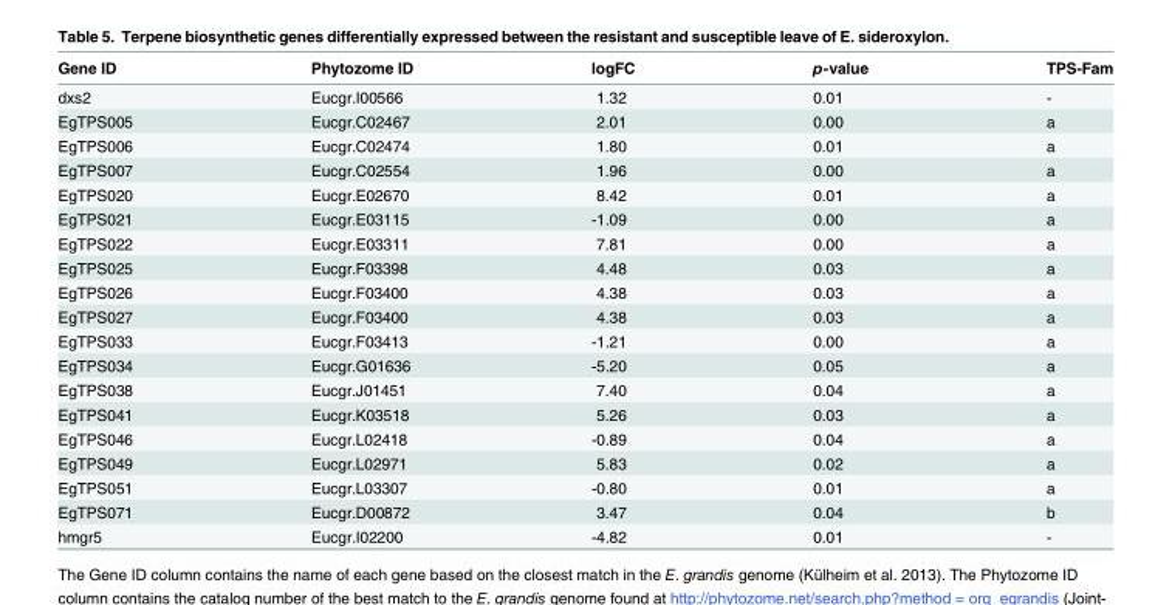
<table><thead><tr><td>Gene ID</td><td>Phytozome ID</td><td>logFC</td><td>p-value</td><td>TPS-Fam</td></tr></thead><tbody><tr><td>dxs2</td><td>Eucgr.I00566</td><td>1.32</td><td>0.01</td><td>-</td></tr><tr><td>EgTPS005</td><td>Eucgr.C02467</td><td>2.01</td><td>0.00</td><td>a</td></tr><tr><td>EgTPS006</td><td>Eucgr.C02474</td><td>1.80</td><td>0.01</td><td>a</td></tr><tr><td>EgTPS007</td><td>Eucgr.C02554</td><td>1.96</td><td>0.00</td><td>a</td></tr><tr><td>EgTPS020</td><td>Eucgr.E02670</td><td>8.42</td><td>0.01</td><td>a</td></tr><tr><td>EgTPS021</td><td>Eucgr.E03115</td><td>-1.09</td><td>0.00</td><td>a</td></tr><tr><td>EgTPS022</td><td>Eucgr.E03311</td><td>7.81</td><td>0.00</td><td>a</td></tr><tr><td>EgTPS025</td><td>Eucgr.F03398</td><td>4.48</td><td>0.03</td><td>a</td></tr><tr><td>EgTPS026</td><td>Eucgr.F03400</td><td>4.38</td><td>0.03</td><td>a</td></tr><tr><td>EgTPS027</td><td>Eucgr.F03400</td><td>4.38</td><td>0.03</td><td>a</td></tr><tr><td>EgTPS033</td><td>Eucgr.F03413</td><td>-1.21</td><td>0.00</td><td>a</td></tr><tr><td>EgTPS034</td><td>Eucgr.G01636</td><td>-5.20</td><td>0.05</td><td>a</td></tr><tr><td>EgTPS038</td><td>Eucgr.J01451</td><td>7.40</td><td>0.04</td><td>a</td></tr><tr><td>EgTPS041</td><td>Eucgr.K03518</td><td>5.26</td><td>0.03</td><td>a</td></tr><tr><td>EgTPS046</td><td>Eucgr.L02418</td><td>-0.89</td><td>0.04</td><td>a</td></tr><tr><td>EgTPS049</td><td>Eucgr.L02971</td><td>5.83</td><td>0.02</td><td>a</td></tr><tr><td>EgTPS051</td><td>Eucgr.L03307</td><td>-0.80</td><td>0.01</td><td>a</td></tr><tr><td>EgTPS071</td><td>Eucgr.D00872</td><td>3.47</td><td>0.04</td><td>b</td></tr><tr><td>hmgr5</td><td>Eucgr.I02200</td><td>-4.82</td><td>0.01</td><td>-</td></tr></tbody></table>